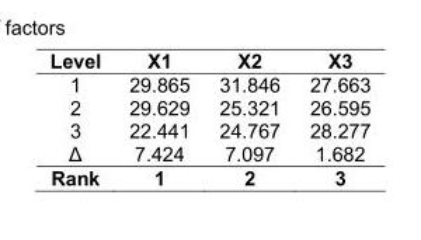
<table><thead><tr><td>Level</td><td>X1</td><td>X2</td><td>X3</td></tr></thead><tbody><tr><td>1</td><td>29.865</td><td>31.846</td><td>27.663</td></tr><tr><td>2</td><td>29.629</td><td>25.321</td><td>26.595</td></tr><tr><td>3</td><td>22.441</td><td>24.767</td><td>28.277</td></tr><tr><td>Δ</td><td>7.424</td><td>7.097</td><td>1.682</td></tr><tr><td>Rank</td><td>1</td><td>2</td><td>3</td></tr></tbody></table>